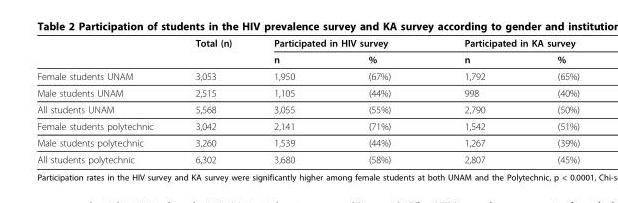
<table><thead><tr><td rowspan="2"></td><td rowspan="2">Total (n)</td><td colspan="2">Participated in HIV survey</td><td colspan="2">Participated in KA survey</td></tr><tr><td>n</td><td>%</td><td>n</td><td>%</td></tr></thead><tbody><tr><td>Female students UNAM</td><td>3,053</td><td>1,950</td><td>(67%)</td><td>1,792</td><td>(65%)</td></tr><tr><td>Male students UNAM</td><td>2,515</td><td>1,105</td><td>(44%)</td><td>998</td><td>(40%)</td></tr><tr><td>All students UNAM</td><td>5,568</td><td>3,055</td><td>(55%)</td><td>2,790</td><td>(50%)</td></tr><tr><td>Female students polytechnic</td><td>3,042</td><td>2,141</td><td>(71%)</td><td>1,542</td><td>(51%)</td></tr><tr><td>Male students polytechnic</td><td>3,260</td><td>1,539</td><td>(44%)</td><td>1,267</td><td>(39%)</td></tr><tr><td>All students polytechnic</td><td>6,302</td><td>3,680</td><td>(58%)</td><td>2,807</td><td>(45%)</td></tr></tbody></table>